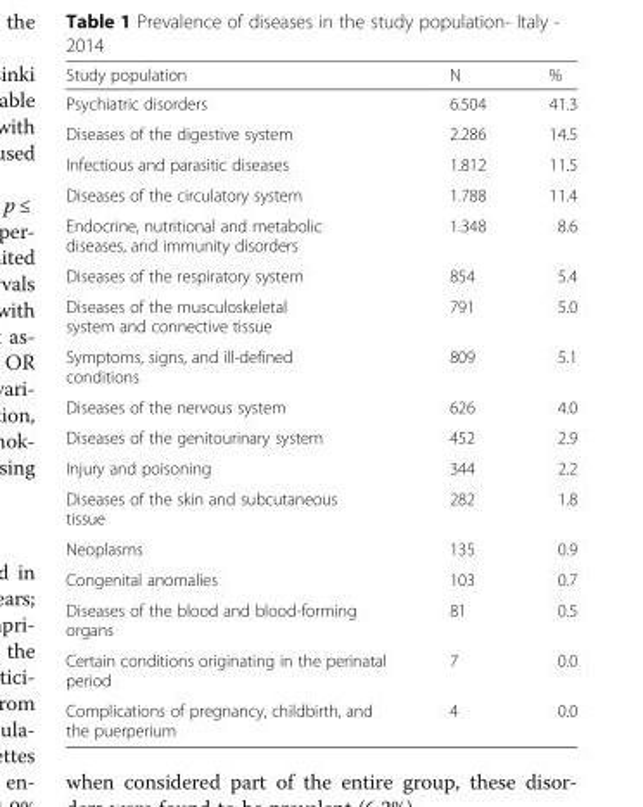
<table><thead><tr><td>Study population</td><td>N</td><td>%</td></tr></thead><tbody><tr><td>Psychiatric disorders</td><td>6.504</td><td>41.3</td></tr><tr><td>Diseases of the digestive system</td><td>2.286</td><td>14.5</td></tr><tr><td>Infectious and parasitic diseases</td><td>1.812</td><td>11.5</td></tr><tr><td>Diseases of the circulatory system</td><td>1.788</td><td>11.4</td></tr><tr><td>Endocrine, nutritional and metabolic diseases, and immunity disorders</td><td>1.348</td><td>8.6</td></tr><tr><td>Diseases of the respiratory system</td><td>854</td><td>5.4</td></tr><tr><td>Diseases of the musculoskeletal system and connective tissue</td><td>791</td><td>5.0</td></tr><tr><td>Symptoms, signs, and ill-defined conditions</td><td>809</td><td>5.1</td></tr><tr><td>Diseases of the nervous system</td><td>626</td><td>4.0</td></tr><tr><td>Diseases of the genitourinary system</td><td>452</td><td>2.9</td></tr><tr><td>Injury and poisoning</td><td>344</td><td>2.2</td></tr><tr><td>Diseases of the skin and subcutaneous tissue</td><td>282</td><td>1.8</td></tr><tr><td>Neoplasms</td><td>135</td><td>0.9</td></tr><tr><td>Congenital anomalies</td><td>103</td><td>0.7</td></tr><tr><td>Diseases of the blood and blood-forming organs</td><td>81</td><td>0.5</td></tr><tr><td>Certain conditions originating in the perinatal period</td><td>7</td><td>0.0</td></tr><tr><td>Complications of pregnancy, childbirth, and the puerperium</td><td>4</td><td>0.0</td></tr></tbody></table>